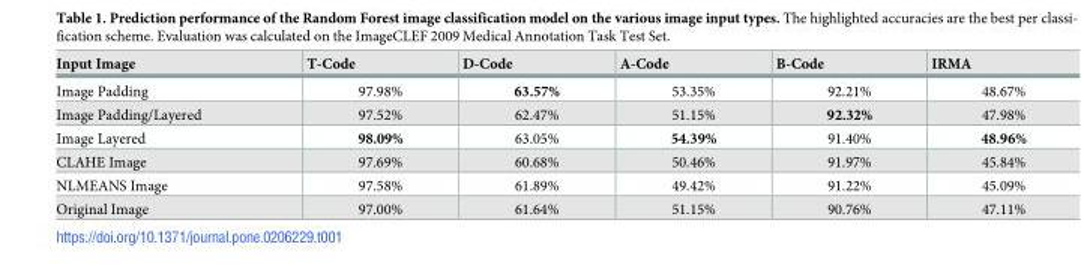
<table><thead><tr><td>Input Image</td><td>T-Code</td><td>D-Code</td><td>A-Code</td><td>B-Code</td><td>IRMA</td></tr></thead><tbody><tr><td>Image Padding</td><td>97.98%</td><td>63.57%</td><td>53.35%</td><td>92.21%</td><td>48.67%</td></tr><tr><td>Image Padding/Layered</td><td>97.52%</td><td>62.47%</td><td>51.15%</td><td>92.32%</td><td>47.98%</td></tr><tr><td>Image Layered</td><td>98.09%</td><td>63.05%</td><td>54.39%</td><td>91.40%</td><td>48.96%</td></tr><tr><td>CLAHE Image</td><td>97.69%</td><td>60.68%</td><td>50.46%</td><td>91.97%</td><td>45.84%</td></tr><tr><td>NLMEANS Image</td><td>97.58%</td><td>61.89%</td><td>49.42%</td><td>91.22%</td><td>45.09%</td></tr><tr><td>Original Image</td><td>97.00%</td><td>61.64%</td><td>51.15%</td><td>90.76%</td><td>47.11%</td></tr></tbody></table>